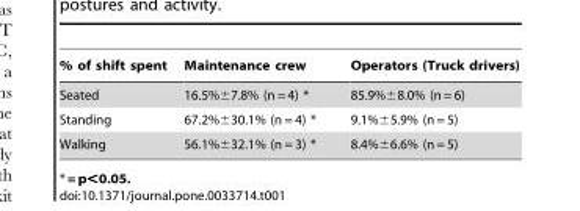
<table><thead><tr><td>% of shift spent</td><td>Maintenance crew</td><td>Operators (Truck drivers)</td></tr></thead><tbody><tr><td>Seated</td><td>16.5%±7.8% (n = 4) *</td><td>85.9%±8.0% (n = 6)</td></tr><tr><td>Standing</td><td>67.2%±30.1% (n = 4) *</td><td>9.1%±5.9% (n = 5)</td></tr><tr><td>Walking</td><td>56.1%±32.1% (n = 3) *</td><td>8.4%±6.6% (n = 5)</td></tr></tbody></table>